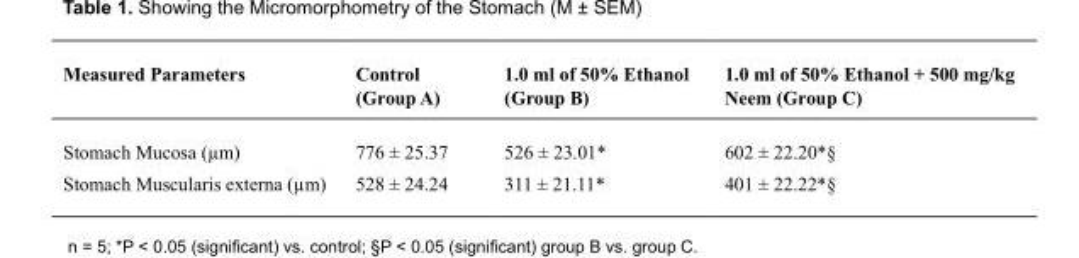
<table><thead><tr><td>Measured Parameters</td><td>Control (Group A)</td><td>1.0 ml of 50% Ethanol (Group B)</td><td>1.0 ml of 50% Ethanol + 500 mg/kg Neem (Group C)</td></tr></thead><tbody><tr><td>Stomach Mucosa (µm)</td><td>776 ± 25.37</td><td>526 ± 23.01*</td><td>602 ± 22.20*§</td></tr><tr><td>Stomach Muscularis externa (µm)</td><td>528 ± 24.24</td><td>311 ± 21.11*</td><td>401 ± 22.22*§</td></tr></tbody></table>